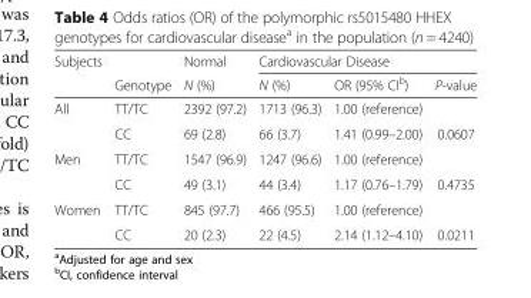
<table><thead><tr><td rowspan="2">Subjects</td><td rowspan="2">Genotype</td><td rowspan="2">Normal N (%)</td><td colspan="3">Cardiovascular Disease</td></tr><tr><td>N (%)</td><td>OR (95% CI<sup>b</sup>)</td><td>P-value</td></tr></thead><tbody><tr><td rowspan="2">All</td><td>TT/TC</td><td>2392 (97.2)</td><td>1713 (96.3)</td><td>1.00 (reference)</td><td></td></tr><tr><td>CC</td><td>69 (2.8)</td><td>66 (3.7)</td><td>1.41 (0.99–2.00)</td><td>0.0607</td></tr><tr><td rowspan="2">Men</td><td>TT/TC</td><td>1547 (96.9)</td><td>1247 (96.6)</td><td>1.00 (reference)</td><td></td></tr><tr><td>CC</td><td>49 (3.1)</td><td>44 (3.4)</td><td>1.17 (0.76–1.79)</td><td>0.4735</td></tr><tr><td rowspan="2">Women</td><td>TT/TC</td><td>845 (97.7)</td><td>466 (95.5)</td><td>1.00 (reference)</td><td></td></tr><tr><td>CC</td><td>20 (2.3)</td><td>22 (4.5)</td><td>2.14 (1.12–4.10)</td><td>0.0211</td></tr></tbody></table>